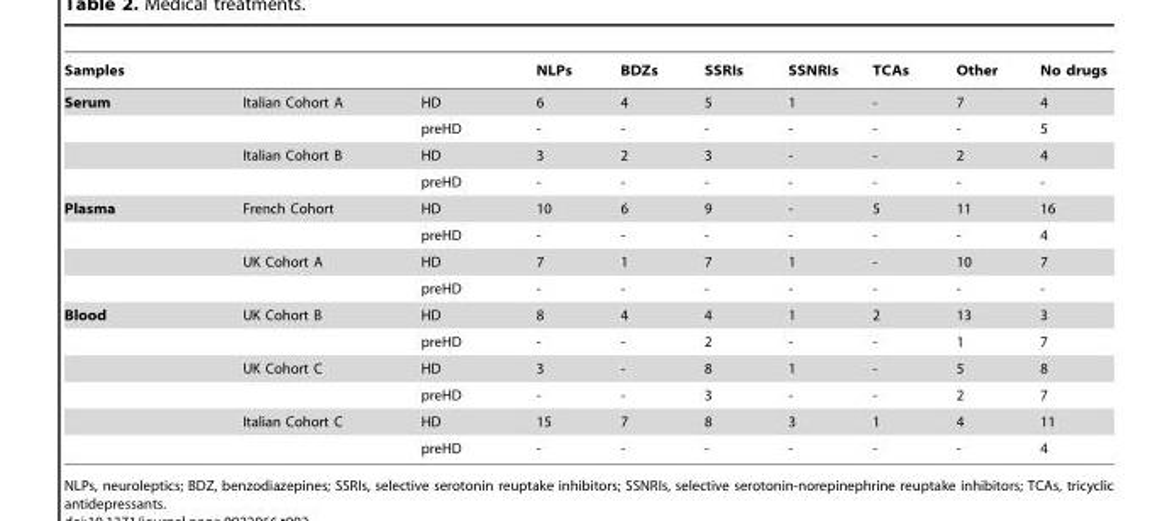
<table><thead><tr><td colspan="3">Samples</td><td rowspan="2">NLPs 6</td><td rowspan="2">BDZs 4</td><td rowspan="2">SSRIs 5</td><td rowspan="2">SSNRIs 1</td><td rowspan="2">TCAs -</td><td rowspan="2">Other 7</td><td rowspan="2">No drugs 4</td></tr><tr><td>Serum</td><td>Italian Cohort A</td><td>HD</td></tr></thead><tbody><tr><td></td><td></td><td>preHD</td><td>-</td><td>-</td><td>-</td><td>-</td><td>-</td><td>-</td><td>5</td></tr><tr><td></td><td>Italian Cohort B</td><td>HD</td><td>3</td><td>2</td><td>3</td><td>-</td><td>-</td><td>2</td><td>4</td></tr><tr><td></td><td></td><td>preHD</td><td>-</td><td>-</td><td>-</td><td>-</td><td>-</td><td>-</td><td>-</td></tr><tr><td rowspan="4">Plasma</td><td>French Cohort</td><td>HD</td><td>10</td><td>6</td><td>9</td><td>-</td><td>5</td><td>11</td><td>16</td></tr><tr><td></td><td>preHD</td><td>-</td><td>-</td><td>-</td><td>-</td><td>-</td><td>-</td><td>4</td></tr><tr><td>UK Cohort A</td><td>HD</td><td>7</td><td>1</td><td>7</td><td>1</td><td>-</td><td>10</td><td>7</td></tr><tr><td></td><td>preHD</td><td>-</td><td>-</td><td>-</td><td>-</td><td>-</td><td>-</td><td>-</td></tr><tr><td rowspan="6">Blood</td><td>UK Cohort B</td><td>HD</td><td>8</td><td>4</td><td>4</td><td>1</td><td>2</td><td>13</td><td>3</td></tr><tr><td></td><td>preHD</td><td>-</td><td>-</td><td>2</td><td>-</td><td>-</td><td>1</td><td>7</td></tr><tr><td>UK Cohort C</td><td>HD</td><td>3</td><td>-</td><td>8</td><td>1</td><td>-</td><td>5</td><td>8</td></tr><tr><td></td><td>preHD</td><td>-</td><td>-</td><td>3</td><td>-</td><td>-</td><td>2</td><td>7</td></tr><tr><td>Italian Cohort C</td><td>HD</td><td>15</td><td>7</td><td>8</td><td>3</td><td>1</td><td>4</td><td>11</td></tr><tr><td></td><td>preHD</td><td>-</td><td>-</td><td>-</td><td>-</td><td>-</td><td>-</td><td>4</td></tr></tbody></table>